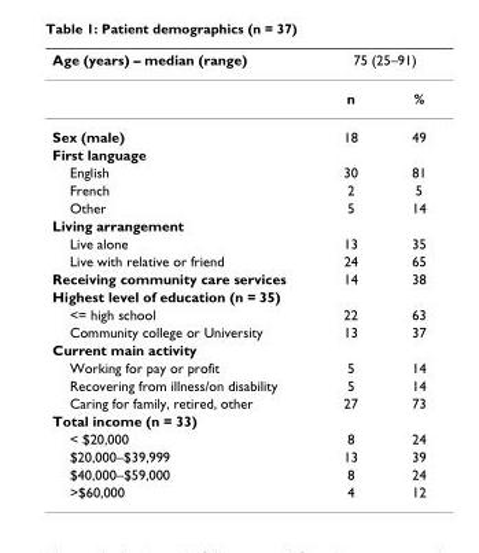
<table><thead><tr><td rowspan="2">Age (years) – median (range)</td><td colspan="2">75 (25–91)</td></tr><tr><td>n</td><td>%</td></tr></thead><tbody><tr><td>Sex (male)</td><td>18</td><td>49</td></tr><tr><td colspan="3">First language</td></tr><tr><td>English</td><td>30</td><td>81</td></tr><tr><td>French</td><td>2</td><td>5</td></tr><tr><td>Other</td><td>5</td><td>14</td></tr><tr><td colspan="3">Living arrangement</td></tr><tr><td>Live alone</td><td>13</td><td>35</td></tr><tr><td>Live with relative or friend</td><td>24</td><td>65</td></tr><tr><td>Receiving community care services</td><td>14</td><td>38</td></tr><tr><td colspan="3">Highest level of education (n = 35)</td></tr><tr><td>&lt;= high school</td><td>22</td><td>63</td></tr><tr><td>Community college or University</td><td>13</td><td>37</td></tr><tr><td colspan="3">Current main activity</td></tr><tr><td>Working for pay or profit</td><td>5</td><td>14</td></tr><tr><td>Recovering from illness/on disability</td><td>5</td><td>14</td></tr><tr><td>Caring for family, retired, other</td><td>27</td><td>73</td></tr><tr><td colspan="3">Total income (n = 33)</td></tr><tr><td>&lt; $20,000</td><td>8</td><td>24</td></tr><tr><td>$20,000–$39,999</td><td>13</td><td>39</td></tr><tr><td>$40,000–$59,000</td><td>8</td><td>24</td></tr><tr><td>&gt;$60,000</td><td>4</td><td>12</td></tr></tbody></table>